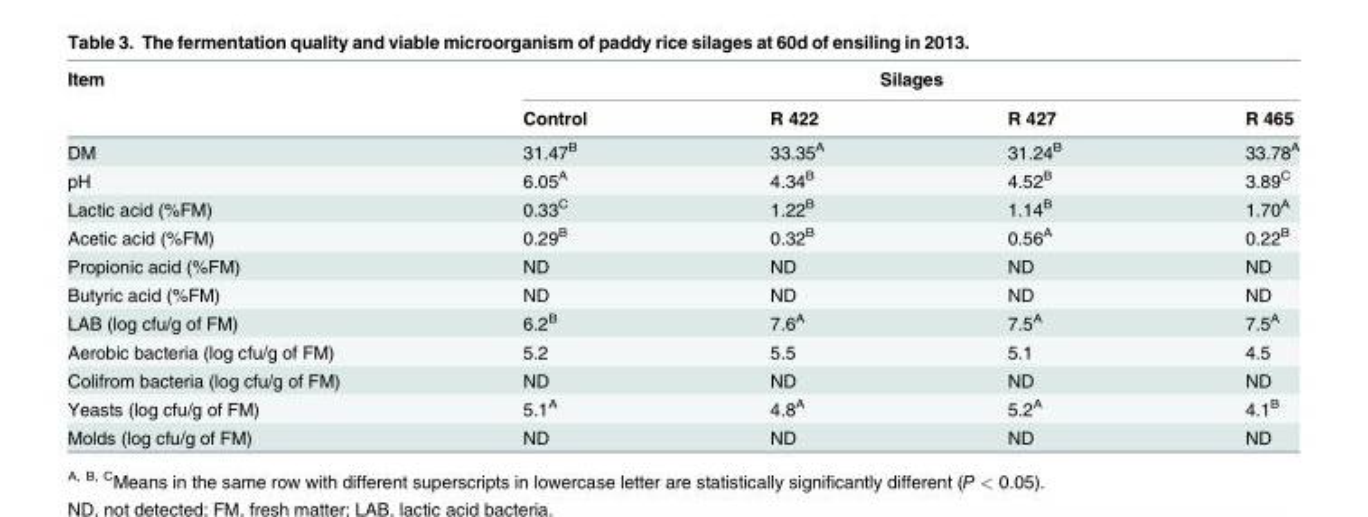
<table><thead><tr><td rowspan="2">Item</td><td colspan="4">Silages</td></tr><tr><td>Control</td><td>R 422</td><td>R 427</td><td>R 465</td></tr></thead><tbody><tr><td>DM</td><td>31.47<sup>B</sup></td><td>33.35<sup>A</sup></td><td>31.24<sup>B</sup></td><td>33.78<sup>A</sup></td></tr><tr><td>pH</td><td>6.05<sup>A</sup></td><td>4.34<sup>B</sup></td><td>4.52<sup>B</sup></td><td>3.89<sup>C</sup></td></tr><tr><td>Lactic acid (%FM)</td><td>0.33<sup>C</sup></td><td>1.22<sup>B</sup></td><td>1.14<sup>B</sup></td><td>1.70<sup>A</sup></td></tr><tr><td>Acetic acid (%FM)</td><td>0.29<sup>B</sup></td><td>0.32<sup>B</sup></td><td>0.56<sup>A</sup></td><td>0.22<sup>B</sup></td></tr><tr><td>Propionic acid (%FM)</td><td>ND</td><td>ND</td><td>ND</td><td>ND</td></tr><tr><td>Butyric acid (%FM)</td><td>ND</td><td>ND</td><td>ND</td><td>ND</td></tr><tr><td>LAB (log cfu/g of FM)</td><td>6.2<sup>B</sup></td><td>7.6<sup>A</sup></td><td>7.5<sup>A</sup></td><td>7.5<sup>A</sup></td></tr><tr><td>Aerobic bacteria (log cfu/g of FM)</td><td>5.2</td><td>5.5</td><td>5.1</td><td>4.5</td></tr><tr><td>Colifrom bacteria (log cfu/g of FM)</td><td>ND</td><td>ND</td><td>ND</td><td>ND</td></tr><tr><td>Yeasts (log cfu/g of FM)</td><td>5.1<sup>A</sup></td><td>4.8<sup>A</sup></td><td>5.2<sup>A</sup></td><td>4.1<sup>B</sup></td></tr><tr><td>Molds (log cfu/g of FM)</td><td>ND</td><td>ND</td><td>ND</td><td>ND</td></tr></tbody></table>